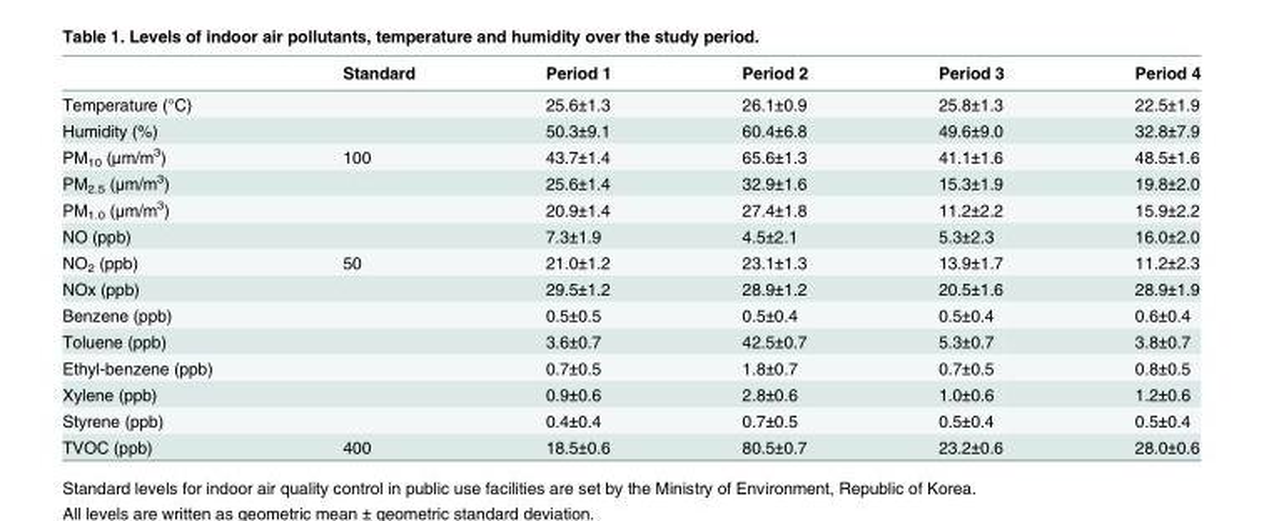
<table><thead><tr><td></td><td>Standard</td><td>Period 1</td><td>Period 2</td><td>Period 3</td><td>Period 4</td></tr></thead><tbody><tr><td>Temperature (°C)</td><td></td><td>25.6±1.3</td><td>26.1±0.9</td><td>25.8±1.3</td><td>22.5±1.9</td></tr><tr><td>Humidity (%)</td><td></td><td>50.3±9.1</td><td>60.4±6.8</td><td>49.6±9.0</td><td>32.8±7.9</td></tr><tr><td>PM<sub>10</sub> (μm/m<sup>3</sup>)</td><td>100</td><td>43.7±1.4</td><td>65.6±1.3</td><td>41.1±1.6</td><td>48.5±1.6</td></tr><tr><td>PM<sub>2.5</sub> (μm/m<sup>3</sup>)</td><td></td><td>25.6±1.4</td><td>32.9±1.6</td><td>15.3±1.9</td><td>19.8±2.0</td></tr><tr><td>PM<sub>1.0</sub> (μm/m<sup>3</sup>)</td><td></td><td>20.9±1.4</td><td>27.4±1.8</td><td>11.2±2.2</td><td>15.9±2.2</td></tr><tr><td>NO (ppb)</td><td></td><td>7.3±1.9</td><td>4.5±2.1</td><td>5.3±2.3</td><td>16.0±2.0</td></tr><tr><td>NO<sub>2</sub> (ppb)</td><td>50</td><td>21.0±1.2</td><td>23.1±1.3</td><td>13.9±1.7</td><td>11.2±2.3</td></tr><tr><td>NOx (ppb)</td><td></td><td>29.5±1.2</td><td>28.9±1.2</td><td>20.5±1.6</td><td>28.9±1.9</td></tr><tr><td>Benzene (ppb)</td><td></td><td>0.5±0.5</td><td>0.5±0.4</td><td>0.5±0.4</td><td>0.6±0.4</td></tr><tr><td>Toluene (ppb)</td><td></td><td>3.6±0.7</td><td>42.5±0.7</td><td>5.3±0.7</td><td>3.8±0.7</td></tr><tr><td>Ethyl-benzene (ppb)</td><td></td><td>0.7±0.5</td><td>1.8±0.7</td><td>0.7±0.5</td><td>0.8±0.5</td></tr><tr><td>Xylene (ppb)</td><td></td><td>0.9±0.6</td><td>2.8±0.6</td><td>1.0±0.6</td><td>1.2±0.6</td></tr><tr><td>Styrene (ppb)</td><td></td><td>0.4±0.4</td><td>0.7±0.5</td><td>0.5±0.4</td><td>0.5±0.4</td></tr><tr><td>TVOC (ppb)</td><td>400</td><td>18.5±0.6</td><td>80.5±0.7</td><td>23.2±0.6</td><td>28.0±0.6</td></tr></tbody></table>